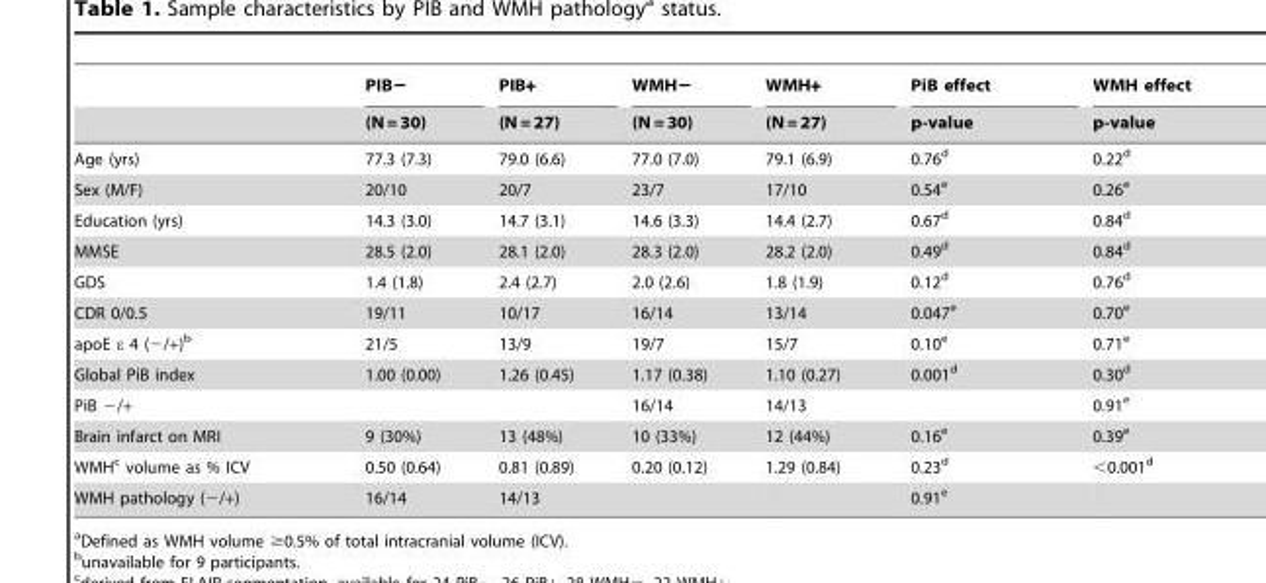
<table><thead><tr><td rowspan="2"></td><td rowspan="2">PIB− (N = 30)</td><td rowspan="2">PIB+ (N = 27)</td><td rowspan="2">WMH− (N = 30)</td><td rowspan="2">WMH+ (N = 27)</td><td rowspan="2">PiB effect p-value</td><td rowspan="2">WMH effect p-value</td></tr><tr></tr></thead><tbody><tr><td>Age (yrs)</td><td>77.3 (7.3)</td><td>79.0 (6.6)</td><td>77.0 (7.0)</td><td>79.1 (6.9)</td><td>0.76<sup>d</sup></td><td>0.22<sup>d</sup></td></tr><tr><td>Sex (M/F)</td><td>20/10</td><td>20/7</td><td>23/7</td><td>17/10</td><td>0.54<sup>e</sup></td><td>0.26<sup>e</sup></td></tr><tr><td>Education (yrs)</td><td>14.3 (3.0)</td><td>14.7 (3.1)</td><td>14.6 (3.3)</td><td>14.4 (2.7)</td><td>0.67<sup>d</sup></td><td>0.84<sup>d</sup></td></tr><tr><td>MMSE</td><td>28.5 (2.0)</td><td>28.1 (2.0)</td><td>28.3 (2.0)</td><td>28.2 (2.0)</td><td>0.49<sup>d</sup></td><td>0.84<sup>d</sup></td></tr><tr><td>GDS</td><td>1.4 (1.8)</td><td>2.4 (2.7)</td><td>2.0 (2.6)</td><td>1.8 (1.9)</td><td>0.12<sup>d</sup></td><td>0.76<sup>d</sup></td></tr><tr><td>CDR 0/0.5</td><td>19/11</td><td>10/17</td><td>16/14</td><td>13/14</td><td>0.047<sup>e</sup></td><td>0.70<sup>e</sup></td></tr><tr><td>apoE ε 4 (−/+)<sup>b</sup></td><td>21/5</td><td>13/9</td><td>19/7</td><td>15/7</td><td>0.10<sup>e</sup></td><td>0.71<sup>e</sup></td></tr><tr><td>Global PiB index</td><td>1.00 (0.00)</td><td>1.26 (0.45)</td><td>1.17 (0.38)</td><td>1.10 (0.27)</td><td>0.001<sup>d</sup></td><td>0.30<sup>d</sup></td></tr><tr><td>PiB −/+</td><td></td><td></td><td>16/14</td><td>14/13</td><td></td><td>0.91<sup>e</sup></td></tr><tr><td>Brain infarct on MRI</td><td>9 (30%)</td><td>13 (48%)</td><td>10 (33%)</td><td>12 (44%)</td><td>0.16<sup>e</sup></td><td>0.39<sup>e</sup></td></tr><tr><td>WMH<sup>c</sup> volume as % ICV</td><td>0.50 (0.64)</td><td>0.81 (0.89)</td><td>0.20 (0.12)</td><td>1.29 (0.84)</td><td>0.23<sup>d</sup></td><td>&lt;0.001<sup>d</sup></td></tr><tr><td>WMH pathology (−/+)</td><td>16/14</td><td>14/13</td><td></td><td></td><td>0.91<sup>e</sup></td><td></td></tr></tbody></table>